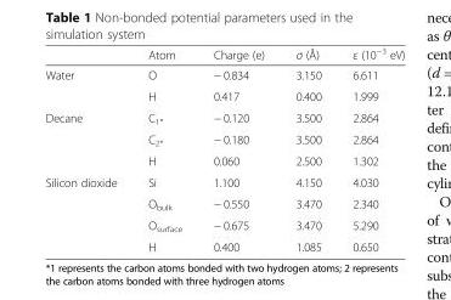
<table><thead><tr><td></td><td>Atom</td><td>Charge (e)</td><td>σ (Å)</td><td>ε (10<sup>−3</sup> eV)</td></tr></thead><tbody><tr><td rowspan="2">Water</td><td>O</td><td>− 0.834</td><td>3.150</td><td>6.611</td></tr><tr><td>H</td><td>0.417</td><td>0.400</td><td>1.999</td></tr><tr><td rowspan="3">Decane</td><td>C<sub>1*</sub></td><td>− 0.120</td><td>3.500</td><td>2.864</td></tr><tr><td>C<sub>2*</sub></td><td>− 0.180</td><td>3.500</td><td>2.864</td></tr><tr><td>H</td><td>0.060</td><td>2.500</td><td>1.302</td></tr><tr><td rowspan="4">Silicon dioxide</td><td>Si</td><td>1.100</td><td>4.150</td><td>4.030</td></tr><tr><td>O<sub>bulk</sub></td><td>− 0.550</td><td>3.470</td><td>2.340</td></tr><tr><td>O<sub>surface</sub></td><td>− 0.675</td><td>3.470</td><td>5.290</td></tr><tr><td>H</td><td>0.400</td><td>1.085</td><td>0.650</td></tr></tbody></table>